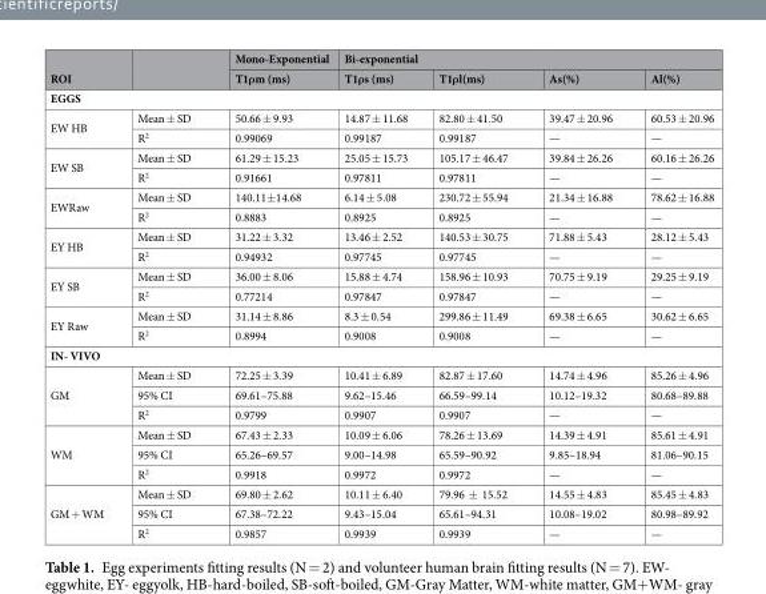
<table><thead><tr><td rowspan="2">ROI</td><td rowspan="2"></td><td rowspan="2">Mono-Exponential T1ρm (ms)</td><td colspan="4">Bi-exponential</td></tr><tr><td>T1ρs (ms)</td><td>T1ρl(ms)</td><td>As(%)</td><td>Al(%)</td></tr></thead><tbody><tr><td colspan="7">EGGS</td></tr><tr><td rowspan="2">EW HB</td><td>Mean ± SD</td><td>50.66 ± 9.93</td><td>14.87 ± 11.68</td><td>82.80 ± 41.50</td><td>39.47 ± 20.96</td><td>60.53 ± 20.96</td></tr><tr><td>R<sup>2</sup></td><td>0.99069</td><td>0.99187</td><td>0.99187</td><td>—</td><td>—</td></tr><tr><td rowspan="2">EW SB</td><td>Mean ± SD</td><td>61.29 ± 15.23</td><td>25.05 ± 15.73</td><td>105.17 ± 46.47</td><td>39.84 ± 26.26</td><td>60.16 ± 26.26</td></tr><tr><td>R<sup>2</sup></td><td>0.91661</td><td>0.97811</td><td>0.97811</td><td>—</td><td>—</td></tr><tr><td rowspan="2">EWRaw</td><td>Mean ± SD</td><td>140.11±14.68</td><td>6.14 ± 5.08</td><td>230.72 ± 55.94</td><td>21.34 ± 16.88</td><td>78.62 ± 16.88</td></tr><tr><td>R<sup>2</sup></td><td>0.8883</td><td>0.8925</td><td>0.8925</td><td>—</td><td>—</td></tr><tr><td rowspan="2">EY HB</td><td>Mean ± SD</td><td>31.22 ± 3.32</td><td>13.46 ± 2.52</td><td>140.53 ± 30.75</td><td>71.88 ± 5.43</td><td>28.12 ± 5.43</td></tr><tr><td>R<sup>2</sup></td><td>0.94932</td><td>0.97745</td><td>0.97745</td><td>—</td><td>—</td></tr><tr><td rowspan="2">EY SB</td><td>Mean ± SD</td><td>36.00 ± 8.06</td><td>15.88 ± 4.74</td><td>158.96 ± 10.93</td><td>70.75 ± 9.19</td><td>29.25 ± 9.19</td></tr><tr><td>R<sup>2</sup></td><td>0.77214</td><td>0.97847</td><td>0.97847</td><td>—</td><td>—</td></tr><tr><td rowspan="2">EY Raw</td><td>Mean ± SD</td><td>31.14 ± 8.86</td><td>8.3 ± 0.54</td><td>299.86 ± 11.49</td><td>69.38 ± 6.65</td><td>30.62 ± 6.65</td></tr><tr><td>R<sup>2</sup></td><td>0.8994</td><td>0.9008</td><td>0.9008</td><td>—</td><td>—</td></tr><tr><td colspan="7">IN- VIVO</td></tr><tr><td rowspan="3">GM</td><td>Mean ± SD</td><td>72.25 ± 3.39</td><td>10.41 ± 6.89</td><td>82.87 ± 17.60</td><td>14.74 ± 4.96</td><td>85.26 ± 4.96</td></tr><tr><td>95% CI</td><td>69.61–75.88</td><td>9.62–15.46</td><td>66.59–99.14</td><td>10.12–19.32</td><td>80.68–89.88</td></tr><tr><td>R<sup>2</sup></td><td>0.9799</td><td>0.9907</td><td>0.9907</td><td>—</td><td>—</td></tr><tr><td rowspan="3">WM</td><td>Mean ± SD</td><td>67.43 ± 2.33</td><td>10.09 ± 6.06</td><td>78.26 ± 13.69</td><td>14.39 ± 4.91</td><td>85.61 ± 4.91</td></tr><tr><td>95% CI</td><td>65.26–69.57</td><td>9.00–14.98</td><td>65.59–90.92</td><td>9.85–18.94</td><td>81.06–90.15</td></tr><tr><td>R<sup>2</sup></td><td>0.9918</td><td>0.9972</td><td>0.9972</td><td>—</td><td>—</td></tr><tr><td rowspan="3">GM + WM</td><td>Mean ± SD</td><td>69.80 ± 2.62</td><td>10.11 ± 6.40</td><td>79.96 ± 15.52</td><td>14.55 ± 4.83</td><td>85.45 ± 4.83</td></tr><tr><td>95% CI</td><td>67.38–72.22</td><td>9.43–15.04</td><td>65.61–94.31</td><td>10.08–19.02</td><td>80.98–89.92</td></tr><tr><td>R<sup>2</sup></td><td>0.9857</td><td>0.9939</td><td>0.9939</td><td>—</td><td>—</td></tr></tbody></table>